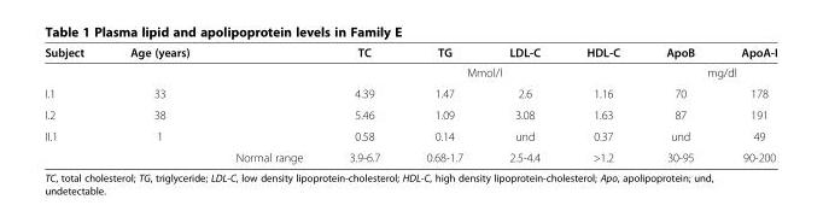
<table><thead><tr><td>Subject</td><td>Age (years)</td><td></td><td>TC</td><td>TG</td><td>LDL-C</td><td>HDL-C</td><td>ApoB</td><td>ApoA-I</td></tr></thead><tbody><tr><td colspan="3"></td><td colspan="4">Mmol/l</td><td colspan="2">mg/dl</td></tr><tr><td>I.1</td><td>33</td><td rowspan="3"></td><td>4.39</td><td>1.47</td><td>2.6</td><td>1.16</td><td>70</td><td>178</td></tr><tr><td>I.2</td><td>38</td><td>5.46</td><td>1.09</td><td>3.08</td><td>1.63</td><td>87</td><td>191</td></tr><tr><td rowspan="2">II.1</td><td rowspan="2">1</td><td>0.58</td><td>0.14</td><td>und</td><td>0.37</td><td>und</td><td>49</td></tr><tr><td>Normal range</td><td>3.9-6.7</td><td>0.68-1.7</td><td>2.5-4.4</td><td>&gt;1.2</td><td>30-95</td><td>90-200</td></tr></tbody></table>